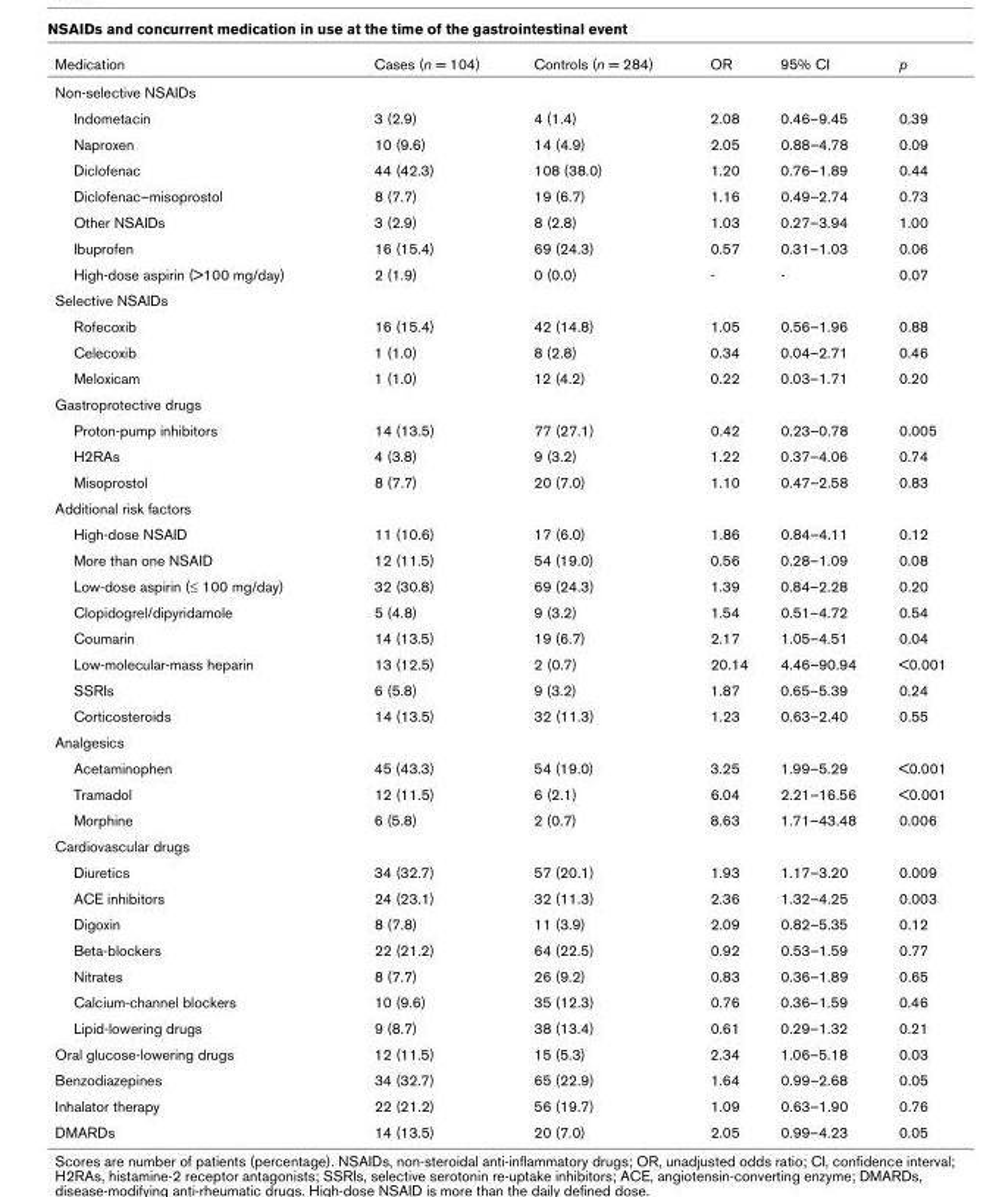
<table><thead><tr><td>Medication</td><td>Cases (n = 104)</td><td>Controls (n = 284)</td><td>OR</td><td>95% CI</td><td>p</td></tr></thead><tbody><tr><td colspan="6">Non-selective NSAIDs</td></tr><tr><td>Indometacin</td><td>3 (2.9)</td><td>4 (1.4)</td><td>2.08</td><td>0.46–9.45</td><td>0.39</td></tr><tr><td>Naproxen</td><td>10 (9.6)</td><td>14 (4.9)</td><td>2.05</td><td>0.88–4.78</td><td>0.09</td></tr><tr><td>Diclofenac</td><td>44 (42.3)</td><td>108 (38.0)</td><td>1.20</td><td>0.76–1.89</td><td>0.44</td></tr><tr><td>Diclofenac–misoprostol</td><td>8 (7.7)</td><td>19 (6.7)</td><td>1.16</td><td>0.49–2.74</td><td>0.73</td></tr><tr><td>Other NSAIDs</td><td>3 (2.9)</td><td>8 (2.8)</td><td>1.03</td><td>0.27–3.94</td><td>1.00</td></tr><tr><td>Ibuprofen</td><td>16 (15.4)</td><td>69 (24.3)</td><td>0.57</td><td>0.31–1.03</td><td>0.06</td></tr><tr><td>High-dose aspirin (&gt;100 mg/day)</td><td>2 (1.9)</td><td>0 (0.0)</td><td>-</td><td>-</td><td>0.07</td></tr><tr><td colspan="6">Selective NSAIDs</td></tr><tr><td>Rofecoxib</td><td>16 (15.4)</td><td>42 (14.8)</td><td>1.05</td><td>0.56–1.96</td><td>0.88</td></tr><tr><td>Celecoxib</td><td>1 (1.0)</td><td>8 (2.8)</td><td>0.34</td><td>0.04–2.71</td><td>0.46</td></tr><tr><td>Meloxicam</td><td>1 (1.0)</td><td>12 (4.2)</td><td>0.22</td><td>0.03–1.71</td><td>0.20</td></tr><tr><td colspan="6">Gastroprotective drugs</td></tr><tr><td>Proton-pump inhibitors</td><td>14 (13.5)</td><td>77 (27.1)</td><td>0.42</td><td>0.23–0.78</td><td>0.005</td></tr><tr><td>H2RAs</td><td>4 (3.8)</td><td>9 (3.2)</td><td>1.22</td><td>0.37–4.06</td><td>0.74</td></tr><tr><td>Misoprostol</td><td>8 (7.7)</td><td>20 (7.0)</td><td>1.10</td><td>0.47–2.58</td><td>0.83</td></tr><tr><td colspan="6">Additional risk factors</td></tr><tr><td>High-dose NSAID</td><td>11 (10.6)</td><td>17 (6.0)</td><td>1.86</td><td>0.84–4.11</td><td>0.12</td></tr><tr><td>More than one NSAID</td><td>12 (11.5)</td><td>54 (19.0)</td><td>0.56</td><td>0.28–1.09</td><td>0.08</td></tr><tr><td>Low-dose aspirin (≤ 100 mg/day)</td><td>32 (30.8)</td><td>69 (24.3)</td><td>1.39</td><td>0.84–2.28</td><td>0.20</td></tr><tr><td>Clopidogrel/dipyridamole</td><td>5 (4.8)</td><td>9 (3.2)</td><td>1.54</td><td>0.51–4.72</td><td>0.54</td></tr><tr><td>Coumarin</td><td>14 (13.5)</td><td>19 (6.7)</td><td>2.17</td><td>1.05–4.51</td><td>0.04</td></tr><tr><td>Low-molecular-mass heparin</td><td>13 (12.5)</td><td>2 (0.7)</td><td>20.14</td><td>4.46–90.94</td><td>&lt;0.001</td></tr><tr><td>SSRIs</td><td>6 (5.8)</td><td>9 (3.2)</td><td>1.87</td><td>0.65–5.39</td><td>0.24</td></tr><tr><td>Corticosteroids</td><td>14 (13.5)</td><td>32 (11.3)</td><td>1.23</td><td>0.63–2.40</td><td>0.55</td></tr><tr><td colspan="6">Analgesics</td></tr><tr><td>Acetaminophen</td><td>45 (43.3)</td><td>54 (19.0)</td><td>3.25</td><td>1.99–5.29</td><td>&lt;0.001</td></tr><tr><td>Tramadol</td><td>12 (11.5)</td><td>6 (2.1)</td><td>6.04</td><td>2.21–16.56</td><td>&lt;0.001</td></tr><tr><td>Morphine</td><td>6 (5.8)</td><td>2 (0.7)</td><td>8.63</td><td>1.71–43.48</td><td>0.006</td></tr><tr><td colspan="6">Cardiovascular drugs</td></tr><tr><td>Diuretics</td><td>34 (32.7)</td><td>57 (20.1)</td><td>1.93</td><td>1.17–3.20</td><td>0.009</td></tr><tr><td>ACE inhibitors</td><td>24 (23.1)</td><td>32 (11.3)</td><td>2.36</td><td>1.32–4.25</td><td>0.003</td></tr><tr><td>Digoxin</td><td>8 (7.8)</td><td>11 (3.9)</td><td>2.09</td><td>0.82–5.35</td><td>0.12</td></tr><tr><td>Beta-blockers</td><td>22 (21.2)</td><td>64 (22.5)</td><td>0.92</td><td>0.53–1.59</td><td>0.77</td></tr><tr><td>Nitrates</td><td>8 (7.7)</td><td>26 (9.2)</td><td>0.83</td><td>0.36–1.89</td><td>0.65</td></tr><tr><td>Calcium-channel blockers</td><td>10 (9.6)</td><td>35 (12.3)</td><td>0.76</td><td>0.36–1.59</td><td>0.46</td></tr><tr><td>Lipid-lowering drugs</td><td>9 (8.7)</td><td>38 (13.4)</td><td>0.61</td><td>0.29–1.32</td><td>0.21</td></tr><tr><td>Oral glucose-lowering drugs</td><td>12 (11.5)</td><td>15 (5.3)</td><td>2.34</td><td>1.06–5.18</td><td>0.03</td></tr><tr><td>Benzodiazepines</td><td>34 (32.7)</td><td>65 (22.9)</td><td>1.64</td><td>0.99–2.68</td><td>0.05</td></tr><tr><td>Inhalator therapy</td><td>22 (21.2)</td><td>56 (19.7)</td><td>1.09</td><td>0.63–1.90</td><td>0.76</td></tr><tr><td>DMARDs</td><td>14 (13.5)</td><td>20 (7.0)</td><td>2.05</td><td>0.99–4.23</td><td>0.05</td></tr></tbody></table>